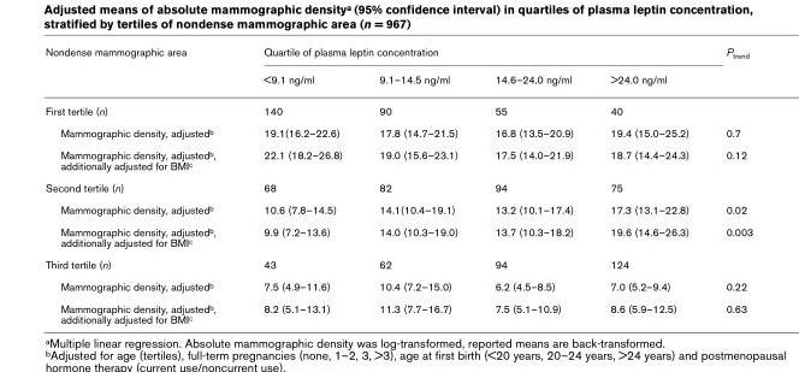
<table><thead><tr><td rowspan="2">Nondense mammographic area</td><td colspan="4">Quartile of plasma leptin concentration</td><td rowspan="2">Ptrend</td></tr><tr><td>&lt;9.1 ng/ml</td><td>9.1–14.5 ng/ml</td><td>14.6–24.0 ng/ml</td><td>&gt;24.0 ng/ml</td></tr></thead><tbody><tr><td>First tertile (n)</td><td>140</td><td>90</td><td>55</td><td>40</td><td></td></tr><tr><td>Mammographic density, adjustedb</td><td>19.1(16.2–22.6)</td><td>17.8 (14.7–21.5)</td><td>16.8 (13.5–20.9)</td><td>19.4 (15.0–25.2)</td><td>0.7</td></tr><tr><td>Mammographic density, adjustedb, additionally adjusted for BMIc</td><td>22.1 (18.2–26.8)</td><td>19.0 (15.6–23.1)</td><td>17.5 (14.0–21.9)</td><td>18.7 (14.4–24.3)</td><td>0.12</td></tr><tr><td>Second tertile (n)</td><td>68</td><td>82</td><td>94</td><td>75</td><td></td></tr><tr><td>Mammographic density, adjustedb</td><td>10.6 (7.8–14.5)</td><td>14.1(10.4–19.1)</td><td>13.2 (10.1–17.4)</td><td>17.3 (13.1–22.8)</td><td>0.02</td></tr><tr><td>Mammographic density, adjustedb, additionally adjusted for BMIc</td><td>9.9 (7.2–13.6)</td><td>14.0 (10.3–19.0)</td><td>13.7 (10.3–18.2)</td><td>19.6 (14.6–26.3)</td><td>0.003</td></tr><tr><td>Third tertile (n)</td><td>43</td><td>62</td><td>94</td><td>124</td><td></td></tr><tr><td>Mammographic density, adjustedb</td><td>7.5 (4.9–11.6)</td><td>10.4 (7.2–15.0)</td><td>6.2 (4.5–8.5)</td><td>7.0 (5.2–9.4)</td><td>0.22</td></tr><tr><td>Mammographic density, adjustedb, additionally adjusted for BMIc</td><td>8.2 (5.1–13.1)</td><td>11.3 (7.7–16.7)</td><td>7.5 (5.1–10.9)</td><td>8.6 (5.9–12.5)</td><td>0.63</td></tr></tbody></table>